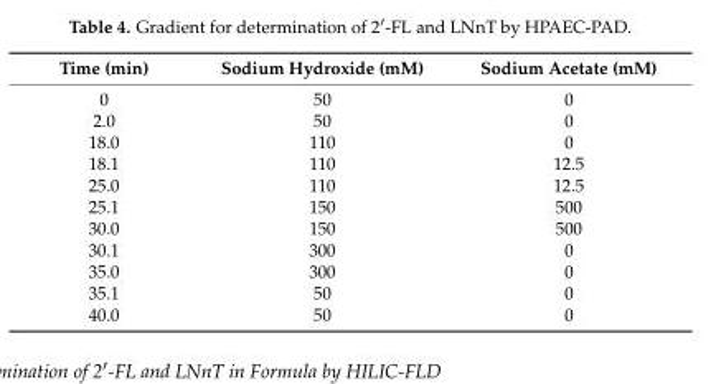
<table><thead><tr><td>Time (min)</td><td>Sodium Hydroxide (mM)</td><td>Sodium Acetate (mM)</td></tr></thead><tbody><tr><td>0</td><td>50</td><td>0</td></tr><tr><td>2.0</td><td>50</td><td>0</td></tr><tr><td>18.0</td><td>110</td><td>0</td></tr><tr><td>18.1</td><td>110</td><td>12.5</td></tr><tr><td>25.0</td><td>110</td><td>12.5</td></tr><tr><td>25.1</td><td>150</td><td>500</td></tr><tr><td>30.0</td><td>150</td><td>500</td></tr><tr><td>30.1</td><td>300</td><td>0</td></tr><tr><td>35.0</td><td>300</td><td>0</td></tr><tr><td>35.1</td><td>50</td><td>0</td></tr><tr><td>40.0</td><td>50</td><td>0</td></tr></tbody></table>